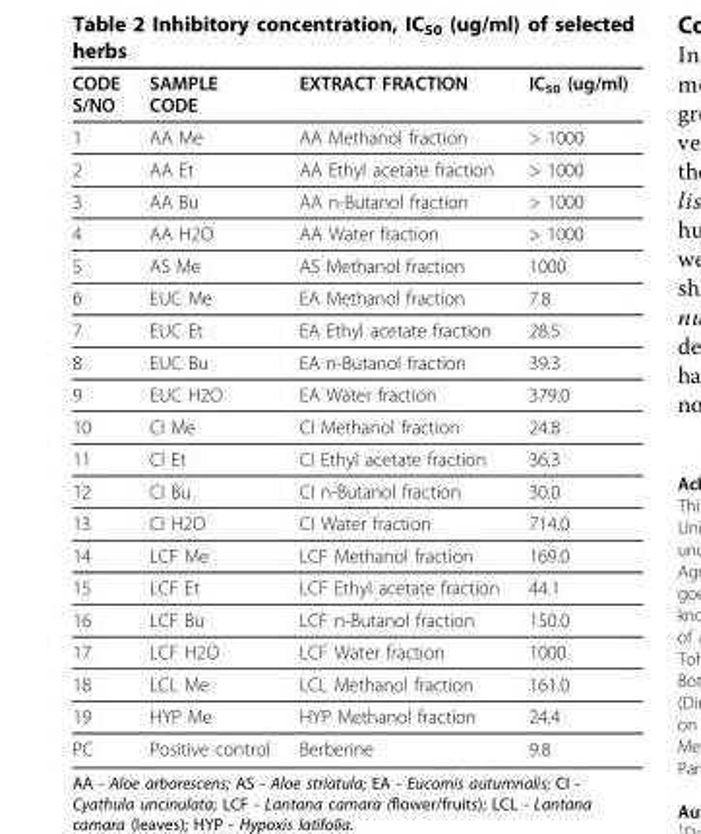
<table><thead><tr><td>CODE S/NO</td><td>SAMPLE CODE</td><td>EXTRACT FRACTION</td><td>IC<sub>50</sub> (ug/ml)</td></tr></thead><tbody><tr><td>1</td><td>AA Me</td><td>AA Methanol fraction</td><td>&gt; 1000</td></tr><tr><td>2</td><td>AA Et</td><td>AA Ethyl acetate fraction</td><td>&gt; 1000</td></tr><tr><td>3</td><td>AA Bu</td><td>AA n-Butanol fraction</td><td>&gt; 1000</td></tr><tr><td>4</td><td>AA H2O</td><td>AA Water fraction</td><td>&gt; 1000</td></tr><tr><td>5</td><td>AS Me</td><td>AS Methanol fraction</td><td>1000</td></tr><tr><td>6</td><td>EUC Me</td><td>EA Methanol fraction</td><td>7.8</td></tr><tr><td>7</td><td>EUC Et</td><td>EA Ethyl acetate fraction</td><td>28.5</td></tr><tr><td>8</td><td>EUC Bu</td><td>EA n-Butanol fraction</td><td>39.3</td></tr><tr><td>9</td><td>EUC H2O</td><td>EA Water fraction</td><td>379.0</td></tr><tr><td>10</td><td>CI Me</td><td>CI Methanol fraction</td><td>24.8</td></tr><tr><td>11</td><td>CI Et</td><td>CI Ethyl acetate fraction</td><td>36.3</td></tr><tr><td>12</td><td>CI Bu</td><td>CI n-Butanol fraction</td><td>30.0</td></tr><tr><td>13</td><td>CI H2O</td><td>CI Water fraction</td><td>714.0</td></tr><tr><td>14</td><td>LCF Me</td><td>LCF Methanol fraction</td><td>169.0</td></tr><tr><td>15</td><td>LCF Et</td><td>LCF Ethyl acetate fraction</td><td>44.1</td></tr><tr><td>16</td><td>LCF Bu</td><td>LCF n-Butanol fraction</td><td>150.0</td></tr><tr><td>17</td><td>LCF H2O</td><td>LCF Water fraction</td><td>1000</td></tr><tr><td>18</td><td>LCL Me</td><td>LCL Methanol fraction</td><td>161.0</td></tr><tr><td>19</td><td>HYP Me</td><td>HYP Methanol fraction</td><td>24.4</td></tr><tr><td>PC</td><td>Positive control</td><td>Berberine</td><td>9.8</td></tr></tbody></table>